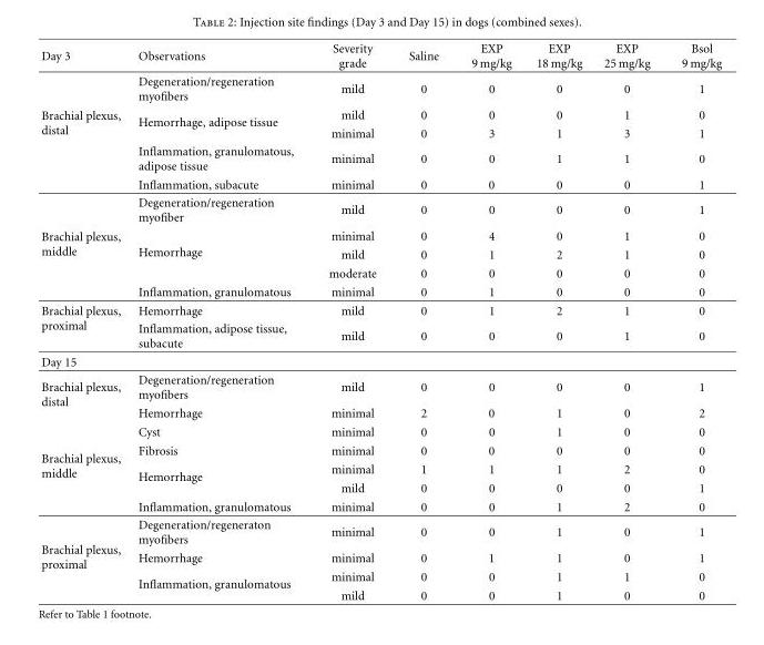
<table><thead><tr><td>Day 3</td><td>Observations</td><td>Severity grade</td><td>Saline</td><td>EXP 9 mg/kg</td><td>EXP 18 mg/kg</td><td>EXP 25 mg/kg</td><td>Bsol 9 mg/kg</td></tr></thead><tbody><tr><td rowspan="5">Brachial plexus, distal</td><td>Degeneration/regeneration myofibers</td><td>mild</td><td>0</td><td>0</td><td>0</td><td>0</td><td>1</td></tr><tr><td rowspan="2">Hemorrhage, adipose tissue</td><td>mild</td><td>0</td><td>0</td><td>0</td><td>1</td><td>0</td></tr><tr><td>minimal</td><td>0</td><td>3</td><td>1</td><td>3</td><td>1</td></tr><tr><td>Inflammation, granulomatous, adipose tissue</td><td>minimal</td><td>0</td><td>0</td><td>1</td><td>1</td><td>0</td></tr><tr><td>Inflammation, subacute</td><td>minimal</td><td>0</td><td>0</td><td>0</td><td>0</td><td>1</td></tr><tr><td rowspan="5">Brachial plexus, middle</td><td>Degeneration/regeneration myofiber</td><td>mild</td><td>0</td><td>0</td><td>0</td><td>0</td><td>1</td></tr><tr><td rowspan="3">Hemorrhage</td><td>minimal</td><td>0</td><td>4</td><td>0</td><td>1</td><td>0</td></tr><tr><td>mild</td><td>0</td><td>1</td><td>2</td><td>1</td><td>0</td></tr><tr><td>moderate</td><td>0</td><td>0</td><td>0</td><td>0</td><td>0</td></tr><tr><td>Inflammation, granulomatous</td><td>minimal</td><td>0</td><td>1</td><td>0</td><td>0</td><td>0</td></tr><tr><td rowspan="2">Brachial plexus, proximal</td><td>Hemorrhage</td><td>mild</td><td>0</td><td>1</td><td>2</td><td>1</td><td>0</td></tr><tr><td>Inflammation, adipose tissue, subacute</td><td>mild</td><td>0</td><td>0</td><td>0</td><td>1</td><td>0</td></tr><tr><td colspan="8">Day 15</td></tr><tr><td rowspan="2">Brachial plexus, distal</td><td>Degeneration/regeneration myofibers</td><td>mild</td><td>0</td><td>0</td><td>0</td><td>0</td><td>1</td></tr><tr><td>Hemorrhage</td><td>minimal</td><td>2</td><td>0</td><td>1</td><td>0</td><td>2</td></tr><tr><td rowspan="5">Brachial plexus, middle</td><td>Cyst</td><td>minimal</td><td>0</td><td>0</td><td>1</td><td>0</td><td>0</td></tr><tr><td>Fibrosis</td><td>minimal</td><td>0</td><td>0</td><td>0</td><td>0</td><td>0</td></tr><tr><td rowspan="2">Hemorrhage</td><td>minimal</td><td>1</td><td>1</td><td>1</td><td>2</td><td>0</td></tr><tr><td>mild</td><td>0</td><td>0</td><td>0</td><td>0</td><td>1</td></tr><tr><td>Inflammation, granulomatous</td><td>minimal</td><td>0</td><td>0</td><td>1</td><td>2</td><td>0</td></tr><tr><td rowspan="4">Brachial plexus, proximal</td><td>Degeneration/regeneraton myofibers</td><td>minimal</td><td>0</td><td>0</td><td>1</td><td>0</td><td>1</td></tr><tr><td>Hemorrhage</td><td>minimal</td><td>0</td><td>1</td><td>1</td><td>0</td><td>1</td></tr><tr><td rowspan="2">Inflammation, granulomatous</td><td>minimal</td><td>0</td><td>0</td><td>1</td><td>1</td><td>0</td></tr><tr><td>mild</td><td>0</td><td>0</td><td>1</td><td>0</td><td>0</td></tr></tbody></table>